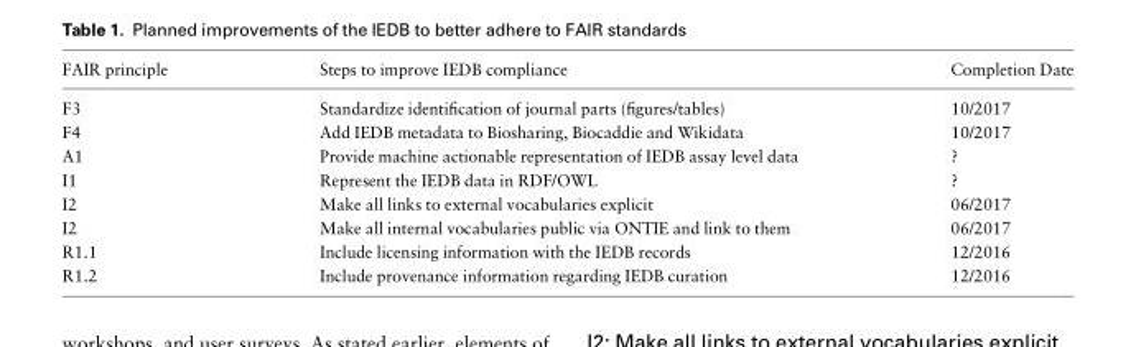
<table><thead><tr><td>FAIR principle</td><td>Steps to improve IEDB compliance</td><td>Completion Date</td></tr></thead><tbody><tr><td>F3</td><td>Standardize identification of journal parts (figures/tables)</td><td>10/2017</td></tr><tr><td>F4</td><td>Add IEDB metadata to Biosharing, Biocaddie and Wikidata</td><td>10/2017</td></tr><tr><td>A1</td><td>Provide machine actionable representation of IEDB assay level data</td><td>?</td></tr><tr><td>I1</td><td>Represent the IEDB data in RDF/OWL</td><td>?</td></tr><tr><td>I2</td><td>Make all links to external vocabularies explicit</td><td>06/2017</td></tr><tr><td>I2</td><td>Make all internal vocabularies public via ONTIE and link to them</td><td>06/2017</td></tr><tr><td>R1.1</td><td>Include licensing information with the IEDB records</td><td>12/2016</td></tr><tr><td>R1.2</td><td>Include provenance information regarding IEDB curation</td><td>12/2016</td></tr></tbody></table>